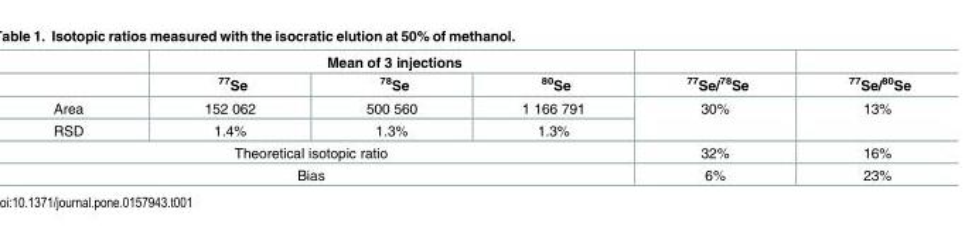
<table><thead><tr><td rowspan="2"></td><td colspan="3">Mean of 3 injections</td><td rowspan="2"><sup>77</sup>Se/<sup>78</sup>Se</td><td rowspan="2"><sup>77</sup>Se/<sup>80</sup>Se</td></tr><tr><td><sup>77</sup>Se</td><td><sup>78</sup>Se</td><td><sup>80</sup>Se</td></tr></thead><tbody><tr><td>Area</td><td>152 062</td><td>500 560</td><td>1 166 791</td><td rowspan="2">30%</td><td rowspan="2">13%</td></tr><tr><td>RSD</td><td>1.4%</td><td>1.3%</td><td>1.3%</td></tr><tr><td colspan="4">Theoretical isotopic ratio</td><td>32%</td><td>16%</td></tr><tr><td colspan="4">Bias</td><td>6%</td><td>23%</td></tr></tbody></table>